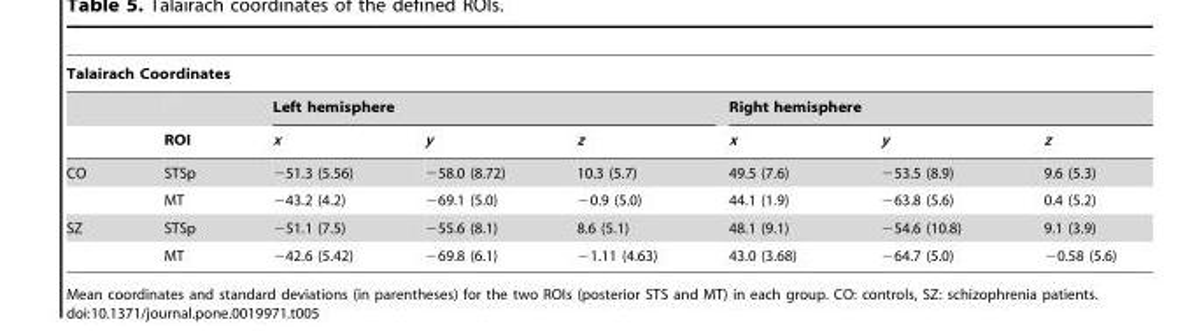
<table><thead><tr><td colspan="8">Talairach Coordinates</td></tr><tr><td rowspan="2"></td><td rowspan="2">ROI</td><td colspan="3">Left hemisphere</td><td colspan="3">Right hemisphere</td></tr><tr><td>x</td><td>y</td><td>z</td><td>x</td><td>y</td><td>z</td></tr></thead><tbody><tr><td rowspan="2">CO</td><td>STSp</td><td>−51.3 (5.56)</td><td>−58.0 (8.72)</td><td>10.3 (5.7)</td><td>49.5 (7.6)</td><td>−53.5 (8.9)</td><td>9.6 (5.3)</td></tr><tr><td>MT</td><td>−43.2 (4.2)</td><td>−69.1 (5.0)</td><td>−0.9 (5.0)</td><td>44.1 (1.9)</td><td>−63.8 (5.6)</td><td>0.4 (5.2)</td></tr><tr><td rowspan="2">SZ</td><td>STSp</td><td>−51.1 (7.5)</td><td>−55.6 (8.1)</td><td>8.6 (5.1)</td><td>48.1 (9.1)</td><td>−54.6 (10.8)</td><td>9.1 (3.9)</td></tr><tr><td>MT</td><td>−42.6 (5.42)</td><td>−69.8 (6.1)</td><td>−1.11 (4.63)</td><td>43.0 (3.68)</td><td>−64.7 (5.0)</td><td>−0.58 (5.6)</td></tr></tbody></table>